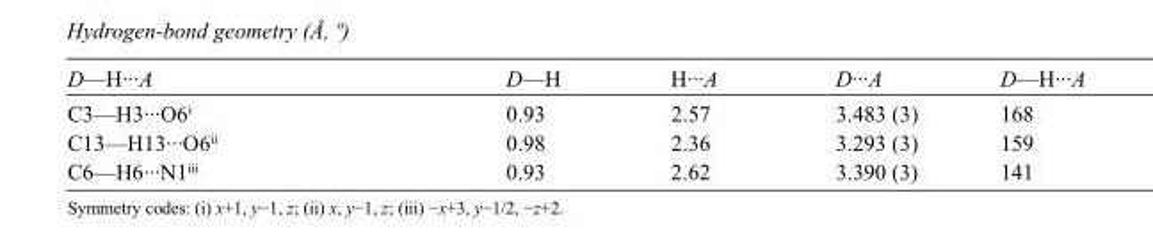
<table><tbody><tr><td>D—H···A</td><td>D—H</td><td>H···A</td><td>D···A</td><td>D—H···A</td></tr><tr><td>C3—H3···O6<sup>i</sup></td><td>0.93</td><td>2.57</td><td>3.483 (3)</td><td>168</td></tr><tr><td>C13—H13···O6<sup>ii</sup></td><td>0.98</td><td>2.36</td><td>3.293 (3)</td><td>159</td></tr><tr><td>C6—H6···N1<sup>iii</sup></td><td>0.93</td><td>2.62</td><td>3.390 (3)</td><td>141</td></tr></tbody></table>